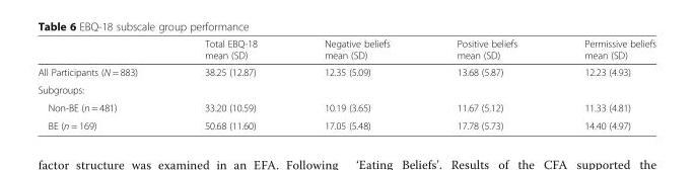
<table><thead><tr><td></td><td>Total EBQ-18 mean (SD)</td><td>Negative beliefs mean (SD)</td><td>Positive beliefs mean (SD)</td><td>Permissive beliefs mean (SD)</td></tr></thead><tbody><tr><td>All Participants (N = 883)</td><td>38.25 (12.87)</td><td>12.35 (5.09)</td><td>13.68 (5.87)</td><td>12.23 (4.93)</td></tr><tr><td colspan="5">Subgroups:</td></tr><tr><td>Non-BE (n = 481)</td><td>33.20 (10.59)</td><td>10.19 (3.65)</td><td>11.67 (5.12)</td><td>11.33 (4.81)</td></tr><tr><td>BE (n = 169)</td><td>50.68 (11.60)</td><td>17.05 (5.48)</td><td>17.78 (5.73)</td><td>14.40 (4.97)</td></tr></tbody></table>